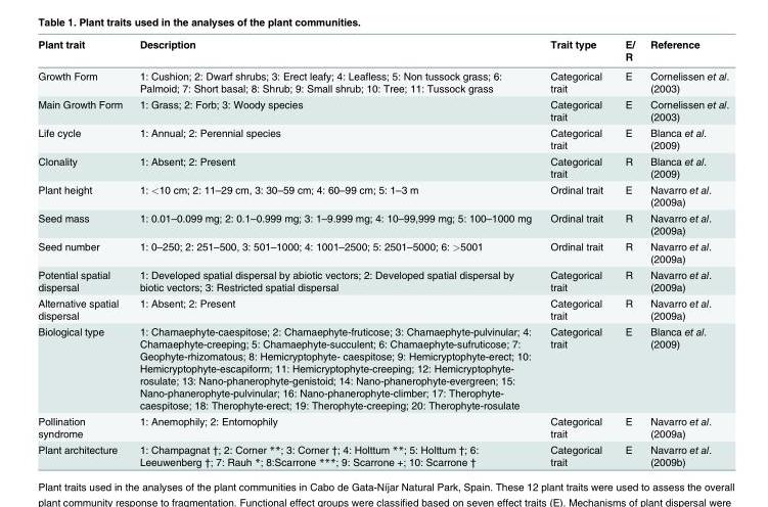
<table><thead><tr><td>Plant trait</td><td>Description</td><td>Trait type</td><td>E/ R</td><td>Reference</td></tr></thead><tbody><tr><td>Growth Form</td><td>1: Cushion; 2: Dwarf shrubs; 3: Erect leafy; 4: Leafless; 5: Non tussock grass; 6: Palmoid; 7: Short basal; 8: Shrub; 9: Small shrub; 10: Tree; 11: Tussock grass</td><td>Categorical trait</td><td>E</td><td>Cornelissen et al. (2003)</td></tr><tr><td>Main Growth Form</td><td>1: Grass; 2: Forb; 3: Woody species</td><td>Categorical trait</td><td>E</td><td>Cornelissen et al. (2003)</td></tr><tr><td>Life cycle</td><td>1: Annual; 2: Perennial species</td><td>Categorical trait</td><td>E</td><td>Blanca et al. (2009)</td></tr><tr><td>Clonality</td><td>1: Absent; 2: Present</td><td>Categorical trait</td><td>R</td><td>Blanca et al. (2009)</td></tr><tr><td>Plant height</td><td>1: &lt;10 cm; 2: 11–29 cm, 3: 30–59 cm; 4: 60–99 cm; 5: 1–3 m</td><td>Ordinal trait</td><td>E</td><td>Navarro et al. (2009a)</td></tr><tr><td>Seed mass</td><td>1: 0.01–0.099 mg; 2: 0.1–0.999 mg; 3: 1–9.999 mg; 4: 10–99,999 mg; 5: 100–1000 mg</td><td>Ordinal trait</td><td>R</td><td>Navarro et al. (2009a)</td></tr><tr><td>Seed number</td><td>1: 0–250; 2: 251–500, 3: 501–1000; 4: 1001–2500; 5: 2501–5000; 6: &gt;5001</td><td>Ordinal trait</td><td>R</td><td>Navarro et al. (2009a)</td></tr><tr><td>Potential spatial dispersal</td><td>1: Developed spatial dispersal by abiotic vectors; 2: Developed spatial dispersal by biotic vectors; 3: Restricted spatial dispersal</td><td>Categorical trait</td><td>R</td><td>Navarro et al. (2009a)</td></tr><tr><td>Alternative spatial dispersal</td><td>1: Absent; 2: Present</td><td>Categorical trait</td><td>R</td><td>Navarro et al. (2009a)</td></tr><tr><td>Biological type</td><td>1: Chamaephyte-caespitose; 2: Chamaephyte-fruticose; 3: Chamaephyte-pulvinular; 4: Chamaephyte-creeping; 5: Chamaephyte-succulent; 6: Chamaephyte-sufruticose; 7: Geophyte-rhizomatous; 8: Hemicryptophyte- caespitose; 9: Hemicryptophyte-erect; 10: Hemicryptophyte-escapiform; 11: Hemicryptophyte-creeping; 12: Hemicryptophyte- rosulate; 13: Nano-phanerophyte-genistoid; 14: Nano-phanerophyte-evergreen; 15: Nano-phanerophyte-pulvinular; 16: Nano-phanerophyte-climber; 17: Therophyte- caespitose; 18: Therophyte-erect; 19: Therophyte-creeping; 20: Therophyte-rosulate</td><td>Categorical trait</td><td>E</td><td>Blanca et al. (2009)</td></tr><tr><td>Pollination syndrome</td><td>1: Anemophily; 2: Entomophily</td><td>Categorical trait</td><td>E</td><td>Navarro et al. (2009a)</td></tr><tr><td>Plant architecture</td><td>1: Champagnat †; 2: Corner **; 3: Corner †; 4: Holttum **; 5: Holttum †; 6: Leeuwenberg †; 7: Rauh *; 8:Scarrone ***; 9: Scarrone +; 10: Scarrone †</td><td>Categorical trait</td><td>E</td><td>Navarro et al. (2009b)</td></tr></tbody></table>